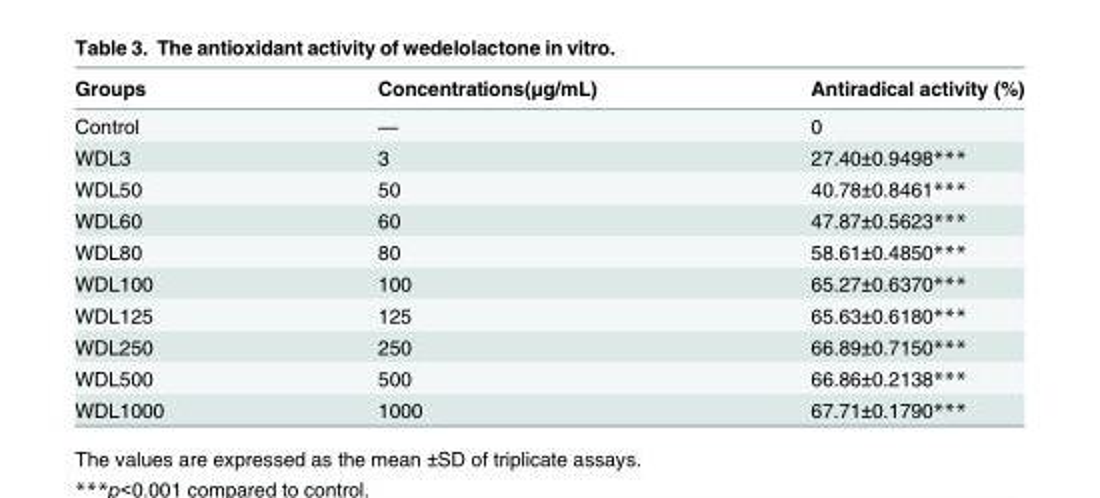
<table><thead><tr><td>Groups</td><td>Concentrations(μg/mL)</td><td>Antiradical activity (%)</td></tr></thead><tbody><tr><td>Control</td><td>—</td><td>0</td></tr><tr><td>WDL3</td><td>3</td><td>27.40±0.9498***</td></tr><tr><td>WDL50</td><td>50</td><td>40.78±0.8461***</td></tr><tr><td>WDL60</td><td>60</td><td>47.87±0.5623***</td></tr><tr><td>WDL80</td><td>80</td><td>58.61±0.4850***</td></tr><tr><td>WDL100</td><td>100</td><td>65.27±0.6370***</td></tr><tr><td>WDL125</td><td>125</td><td>65.63±0.6180***</td></tr><tr><td>WDL250</td><td>250</td><td>66.89±0.7150***</td></tr><tr><td>WDL500</td><td>500</td><td>66.86±0.2138***</td></tr><tr><td>WDL1000</td><td>1000</td><td>67.71±0.1790***</td></tr></tbody></table>